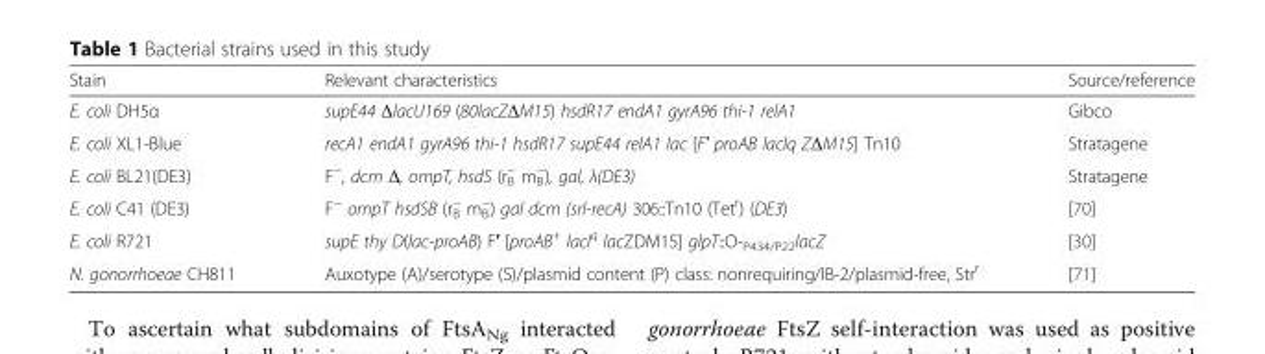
<table><thead><tr><td>Stain</td><td>Relevant characteristics</td><td>Source/reference</td></tr></thead><tbody><tr><td>E. coli DH5α</td><td>supE44 ΔlacU169 (80lacZΔM15) hsdR17 endA1 gyrA96 thi-1 relA1</td><td>Gibco</td></tr><tr><td>E. coli XL1-Blue</td><td>recA1 endA1 gyrA96 thi-1 hsdR17 supE44 relA1 lac [F′ proAB laclq ZΔM15] Tn10</td><td>Stratagene</td></tr><tr><td>E. coli BL21(DE3)</td><td>F<sup>−</sup>, dcm Δ, ompT, hsdS (r<sup>−</sup> <sub>B</sub> m<sup>−</sup> <sub>B</sub>), gal, λ(DE3)</td><td>Stratagene</td></tr><tr><td>E. coli C41 (DE3)</td><td>F<sup>−</sup> ompT hsdSB (r<sup>−</sup> <sub>B</sub> m<sup>−</sup> <sub>B</sub>) gal dcm (srl-recA) 306::Tn10 (Tet<sup>r</sup>) (DE3)</td><td>[70]</td></tr><tr><td>E. coli R721</td><td>supE thy D(lac-proAB) F′ [proAB<sup>+</sup> lacI<sup>q</sup> lacZDM15] glpT::O-<sub>P434/P22</sub>lacZ</td><td>[30]</td></tr><tr><td>N. gonorrhoeae CH811</td><td>Auxotype (A)/serotype (S)/plasmid content (P) class: nonrequiring/IB-2/plasmid-free, Str<sup>r</sup></td><td>[71]</td></tr></tbody></table>